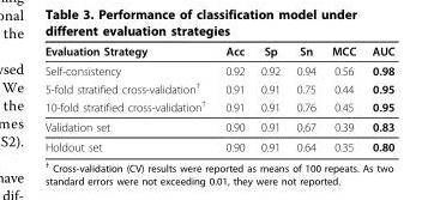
<table><thead><tr><td>Evaluation Strategy</td><td>Acc</td><td>Sp</td><td>Sn</td><td>MCC</td><td>AUC</td></tr></thead><tbody><tr><td>Self-consistency</td><td>0.92</td><td>0.92</td><td>0.94</td><td>0.56</td><td>0.98</td></tr><tr><td>5-fold stratified cross-validation<sup>†</sup></td><td>0.91</td><td>0.91</td><td>0.75</td><td>0.44</td><td>0.95</td></tr><tr><td>10-fold stratified cross-validation<sup>†</sup></td><td>0.91</td><td>0.91</td><td>0.76</td><td>0.45</td><td>0.95</td></tr><tr><td>Validation set</td><td>0.90</td><td>0.91</td><td>0.67</td><td>0.39</td><td>0.83</td></tr><tr><td>Holdout set</td><td>0.90</td><td>0.91</td><td>0.64</td><td>0.35</td><td>0.80</td></tr></tbody></table>